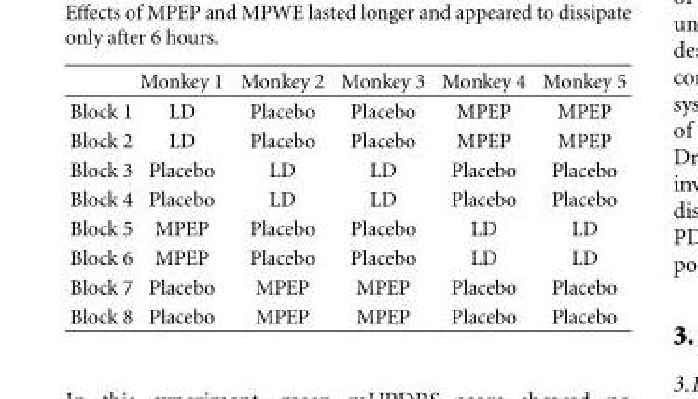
<table><thead><tr><td></td><td>Monkey 1</td><td>Monkey 2</td><td>Monkey 3</td><td>Monkey 4</td><td>Monkey 5</td></tr></thead><tbody><tr><td>Block 1</td><td>LD</td><td>Placebo</td><td>Placebo</td><td>MPEP</td><td>MPEP</td></tr><tr><td>Block 2</td><td>LD</td><td>Placebo</td><td>Placebo</td><td>MPEP</td><td>MPEP</td></tr><tr><td>Block 3</td><td>Placebo</td><td>LD</td><td>LD</td><td>Placebo</td><td>Placebo</td></tr><tr><td>Block 4</td><td>Placebo</td><td>LD</td><td>LD</td><td>Placebo</td><td>Placebo</td></tr><tr><td>Block 5</td><td>MPEP</td><td>Placebo</td><td>Placebo</td><td>LD</td><td>LD</td></tr><tr><td>Block 6</td><td>MPEP</td><td>Placebo</td><td>Placebo</td><td>LD</td><td>LD</td></tr><tr><td>Block 7</td><td>Placebo</td><td>MPEP</td><td>MPEP</td><td>Placebo</td><td>Placebo</td></tr><tr><td>Block 8</td><td>Placebo</td><td>MPEP</td><td>MPEP</td><td>Placebo</td><td>Placebo</td></tr></tbody></table>